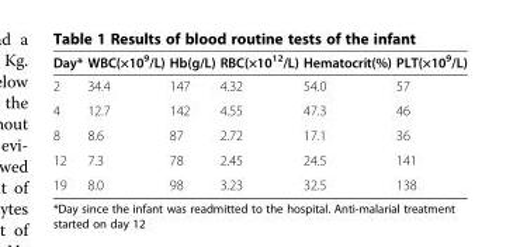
<table><thead><tr><td>Day*</td><td>WBC(×10<sup>9</sup>/L)</td><td>Hb(g/L)</td><td>RBC(×10<sup>12</sup>/L)</td><td>Hematocrit(%)</td><td>PLT(×10<sup>9</sup>/L)</td></tr></thead><tbody><tr><td>2</td><td>34.4</td><td>147</td><td>4.32</td><td>54.0</td><td>57</td></tr><tr><td>4</td><td>12.7</td><td>142</td><td>4.55</td><td>47.3</td><td>46</td></tr><tr><td>8</td><td>8.6</td><td>87</td><td>2.72</td><td>17.1</td><td>36</td></tr><tr><td>12</td><td>7.3</td><td>78</td><td>2.45</td><td>24.5</td><td>141</td></tr><tr><td>19</td><td>8.0</td><td>98</td><td>3.23</td><td>32.5</td><td>138</td></tr></tbody></table>